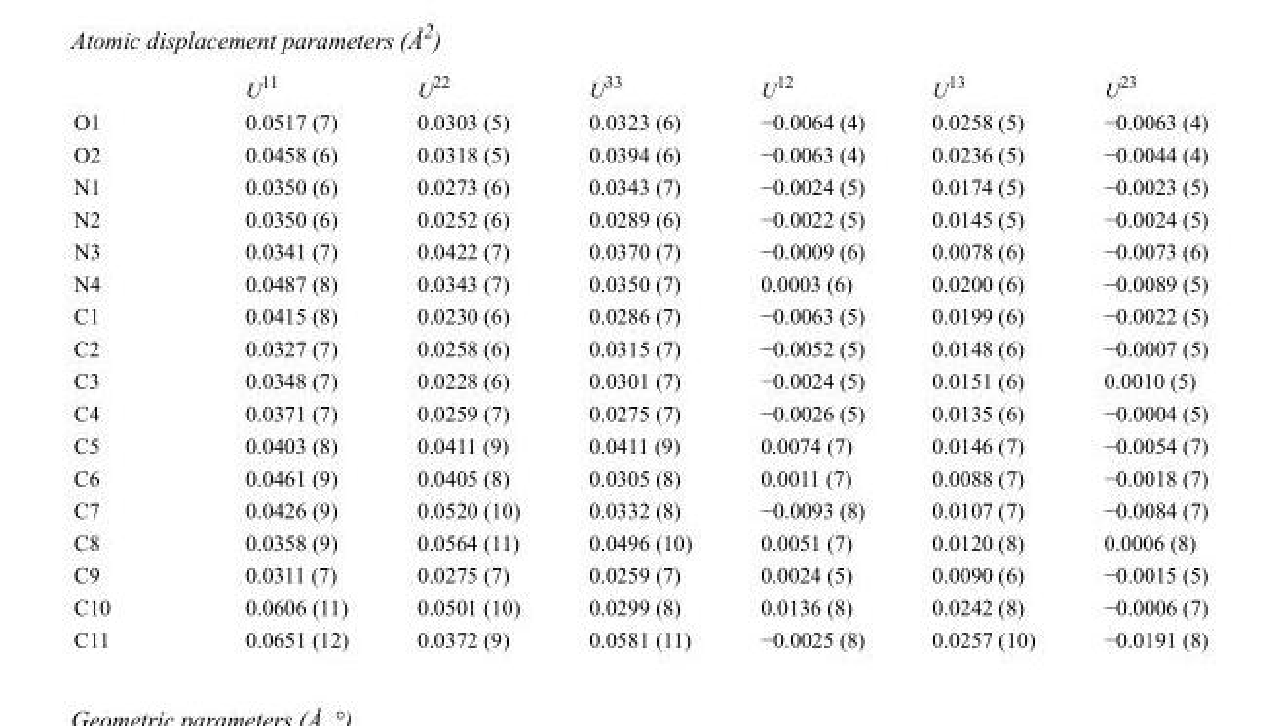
<table><thead><tr><td></td><td>U<sup>11</sup></td><td>U<sup>22</sup></td><td>U<sup>33</sup></td><td>U<sup>12</sup></td><td>U<sup>13</sup></td><td>U<sup>23</sup></td></tr></thead><tbody><tr><td>O1</td><td>0.0517 (7)</td><td>0.0303 (5)</td><td>0.0323 (6)</td><td>−0.0064 (4)</td><td>0.0258 (5)</td><td>−0.0063 (4)</td></tr><tr><td>O2</td><td>0.0458 (6)</td><td>0.0318 (5)</td><td>0.0394 (6)</td><td>−0.0063 (4)</td><td>0.0236 (5)</td><td>−0.0044 (4)</td></tr><tr><td>N1</td><td>0.0350 (6)</td><td>0.0273 (6)</td><td>0.0343 (7)</td><td>−0.0024 (5)</td><td>0.0174 (5)</td><td>−0.0023 (5)</td></tr><tr><td>N2</td><td>0.0350 (6)</td><td>0.0252 (6)</td><td>0.0289 (6)</td><td>−0.0022 (5)</td><td>0.0145 (5)</td><td>−0.0024 (5)</td></tr><tr><td>N3</td><td>0.0341 (7)</td><td>0.0422 (7)</td><td>0.0370 (7)</td><td>−0.0009 (6)</td><td>0.0078 (6)</td><td>−0.0073 (6)</td></tr><tr><td>N4</td><td>0.0487 (8)</td><td>0.0343 (7)</td><td>0.0350 (7)</td><td>0.0003 (6)</td><td>0.0200 (6)</td><td>−0.0089 (5)</td></tr><tr><td>C1</td><td>0.0415 (8)</td><td>0.0230 (6)</td><td>0.0286 (7)</td><td>−0.0063 (5)</td><td>0.0199 (6)</td><td>−0.0022 (5)</td></tr><tr><td>C2</td><td>0.0327 (7)</td><td>0.0258 (6)</td><td>0.0315 (7)</td><td>−0.0052 (5)</td><td>0.0148 (6)</td><td>−0.0007 (5)</td></tr><tr><td>C3</td><td>0.0348 (7)</td><td>0.0228 (6)</td><td>0.0301 (7)</td><td>−0.0024 (5)</td><td>0.0151 (6)</td><td>0.0010 (5)</td></tr><tr><td>C4</td><td>0.0371 (7)</td><td>0.0259 (7)</td><td>0.0275 (7)</td><td>−0.0026 (5)</td><td>0.0135 (6)</td><td>−0.0004 (5)</td></tr><tr><td>C5</td><td>0.0403 (8)</td><td>0.0411 (9)</td><td>0.0411 (9)</td><td>0.0074 (7)</td><td>0.0146 (7)</td><td>−0.0054 (7)</td></tr><tr><td>C6</td><td>0.0461 (9)</td><td>0.0405 (8)</td><td>0.0305 (8)</td><td>0.0011 (7)</td><td>0.0088 (7)</td><td>−0.0018 (7)</td></tr><tr><td>C7</td><td>0.0426 (9)</td><td>0.0520 (10)</td><td>0.0332 (8)</td><td>−0.0093 (8)</td><td>0.0107 (7)</td><td>−0.0084 (7)</td></tr><tr><td>C8</td><td>0.0358 (9)</td><td>0.0564 (11)</td><td>0.0496 (10)</td><td>0.0051 (7)</td><td>0.0120 (8)</td><td>0.0006 (8)</td></tr><tr><td>C9</td><td>0.0311 (7)</td><td>0.0275 (7)</td><td>0.0259 (7)</td><td>0.0024 (5)</td><td>0.0090 (6)</td><td>−0.0015 (5)</td></tr><tr><td>C10</td><td>0.0606 (11)</td><td>0.0501 (10)</td><td>0.0299 (8)</td><td>0.0136 (8)</td><td>0.0242 (8)</td><td>−0.0006 (7)</td></tr><tr><td>C11</td><td>0.0651 (12)</td><td>0.0372 (9)</td><td>0.0581 (11)</td><td>−0.0025 (8)</td><td>0.0257 (10)</td><td>−0.0191 (8)</td></tr></tbody></table>